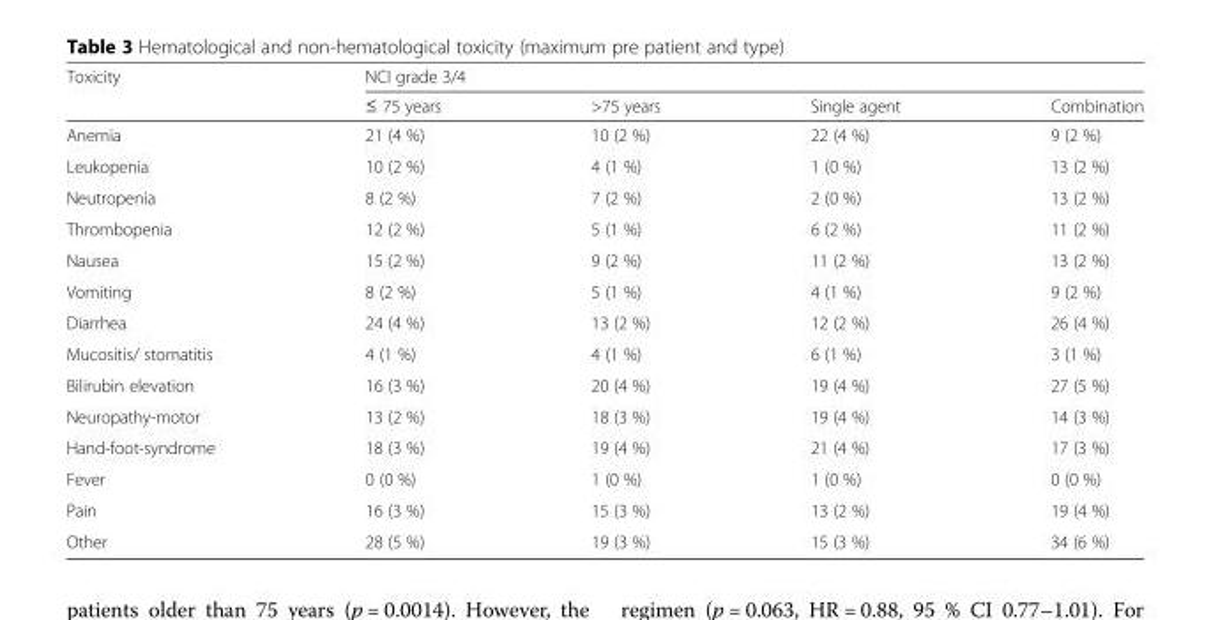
<table><thead><tr><td rowspan="2">Toxicity</td><td colspan="4">NCI grade 3/4</td></tr><tr><td>≤ 75 years</td><td>&gt;75 years</td><td>Single agent</td><td>Combination</td></tr></thead><tbody><tr><td>Anemia</td><td>21 (4 %)</td><td>10 (2 %)</td><td>22 (4 %)</td><td>9 (2 %)</td></tr><tr><td>Leukopenia</td><td>10 (2 %)</td><td>4 (1 %)</td><td>1 (0 %)</td><td>13 (2 %)</td></tr><tr><td>Neutropenia</td><td>8 (2 %)</td><td>7 (2 %)</td><td>2 (0 %)</td><td>13 (2 %)</td></tr><tr><td>Thrombopenia</td><td>12 (2 %)</td><td>5 (1 %)</td><td>6 (2 %)</td><td>11 (2 %)</td></tr><tr><td>Nausea</td><td>15 (2 %)</td><td>9 (2 %)</td><td>11 (2 %)</td><td>13 (2 %)</td></tr><tr><td>Vomiting</td><td>8 (2 %)</td><td>5 (1 %)</td><td>4 (1 %)</td><td>9 (2 %)</td></tr><tr><td>Diarrhea</td><td>24 (4 %)</td><td>13 (2 %)</td><td>12 (2 %)</td><td>26 (4 %)</td></tr><tr><td>Mucositis/ stomatitis</td><td>4 (1 %)</td><td>4 (1 %)</td><td>6 (1 %)</td><td>3 (1 %)</td></tr><tr><td>Bilirubin elevation</td><td>16 (3 %)</td><td>20 (4 %)</td><td>19 (4 %)</td><td>27 (5 %)</td></tr><tr><td>Neuropathy-motor</td><td>13 (2 %)</td><td>18 (3 %)</td><td>19 (4 %)</td><td>14 (3 %)</td></tr><tr><td>Hand-foot-syndrome</td><td>18 (3 %)</td><td>19 (4 %)</td><td>21 (4 %)</td><td>17 (3 %)</td></tr><tr><td>Fever</td><td>0 (0 %)</td><td>1 (0 %)</td><td>1 (0 %)</td><td>0 (0 %)</td></tr><tr><td>Pain</td><td>16 (3 %)</td><td>15 (3 %)</td><td>13 (2 %)</td><td>19 (4 %)</td></tr><tr><td>Other</td><td>28 (5 %)</td><td>19 (3 %)</td><td>15 (3 %)</td><td>34 (6 %)</td></tr></tbody></table>